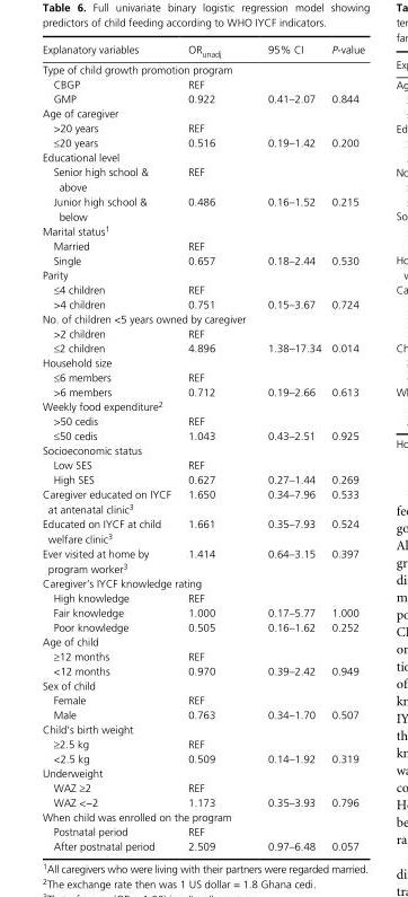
<table><thead><tr><td>Explanatory variables</td><td>OR<sub>unadj</sub></td><td>95% CI</td><td>P- value</td></tr></thead><tbody><tr><td colspan="4">Type of child growth promotion program</td></tr><tr><td>CBGP</td><td>REF</td><td></td><td></td></tr><tr><td>GMP</td><td>0.922</td><td>0.41–2.07</td><td>0.844</td></tr><tr><td colspan="4">Age of caregiver</td></tr><tr><td>&gt;20 years</td><td>REF</td><td></td><td></td></tr><tr><td>≤20 years</td><td>0.516</td><td>0.19–1.42</td><td>0.200</td></tr><tr><td colspan="4">Educational level</td></tr><tr><td>Senior high school &amp; above</td><td>REF</td><td></td><td></td></tr><tr><td>Junior high school &amp; below</td><td>0.486</td><td>0.16–1.52</td><td>0.215</td></tr><tr><td colspan="4">Marital status1</td></tr><tr><td>Married</td><td>REF</td><td></td><td></td></tr><tr><td>Single</td><td>0.657</td><td>0.18–2.44</td><td>0.530</td></tr><tr><td colspan="4">Parity</td></tr><tr><td>≤4 children</td><td>REF</td><td></td><td></td></tr><tr><td>&gt;4 children</td><td>0.751</td><td>0.15–3.67</td><td>0.724</td></tr><tr><td colspan="4">No. of children &lt;5 years owned by caregiver</td></tr><tr><td>&gt;2 children</td><td>REF</td><td></td><td></td></tr><tr><td>≤2 children</td><td>4.896</td><td>1.38–17.34</td><td>0.014</td></tr><tr><td colspan="4">Household size</td></tr><tr><td>≤6 members</td><td>REF</td><td></td><td></td></tr><tr><td>&gt;6 members</td><td>0.712</td><td>0.19–2.66</td><td>0.613</td></tr><tr><td colspan="4">Weekly food expenditure2</td></tr><tr><td>&gt;50 cedis</td><td>REF</td><td></td><td></td></tr><tr><td>≤50 cedis</td><td>1.043</td><td>0.43–2.51</td><td>0.925</td></tr><tr><td colspan="4">Socioeconomic status</td></tr><tr><td>Low SES</td><td>REF</td><td></td><td></td></tr><tr><td>High SES</td><td>0.627</td><td>0.27–1.44</td><td>0.269</td></tr><tr><td>Caregiver educated on IYCF at antenatal clinic3</td><td>1.650</td><td>0.34–7.96</td><td>0.533</td></tr><tr><td>Educated on IYCF at child welfare clinic3</td><td>1.661</td><td>0.35–7.93</td><td>0.524</td></tr><tr><td>Ever visited at home by program worker3</td><td>1.414</td><td>0.64–3.15</td><td>0.397</td></tr><tr><td colspan="4">Caregiver’s IYCF knowledge rating</td></tr><tr><td>High knowledge</td><td>REF</td><td></td><td></td></tr><tr><td>Fair knowledge</td><td>1.000</td><td>0.17–5.77</td><td>1.000</td></tr><tr><td>Poor knowledge</td><td>0.505</td><td>0.16–1.62</td><td>0.252</td></tr><tr><td colspan="4">Age of child</td></tr><tr><td>≥12 months</td><td>REF</td><td></td><td></td></tr><tr><td>&lt;12 months</td><td>0.970</td><td>0.39–2.42</td><td>0.949</td></tr><tr><td colspan="4">Sex of child</td></tr><tr><td>Female</td><td>REF</td><td></td><td></td></tr><tr><td>Male</td><td>0.763</td><td>0.34–1.70</td><td>0.507</td></tr><tr><td colspan="4">Child’s birth weight</td></tr><tr><td>≥2.5 kg</td><td>REF</td><td></td><td></td></tr><tr><td>&lt;2.5 kg</td><td>0.509</td><td>0.14–1.92</td><td>0.319</td></tr><tr><td colspan="4">Underweight</td></tr><tr><td>WAZ ≥2</td><td>REF</td><td></td><td></td></tr><tr><td>WAZ &lt;−2</td><td>1.173</td><td>0.35–3.93</td><td>0.796</td></tr><tr><td colspan="4">When child was enrolled on the program</td></tr><tr><td>Postnatal period</td><td>REF</td><td></td><td></td></tr><tr><td>After postnatal period</td><td>2.509</td><td>0.97–6.48</td><td>0.057</td></tr></tbody></table>